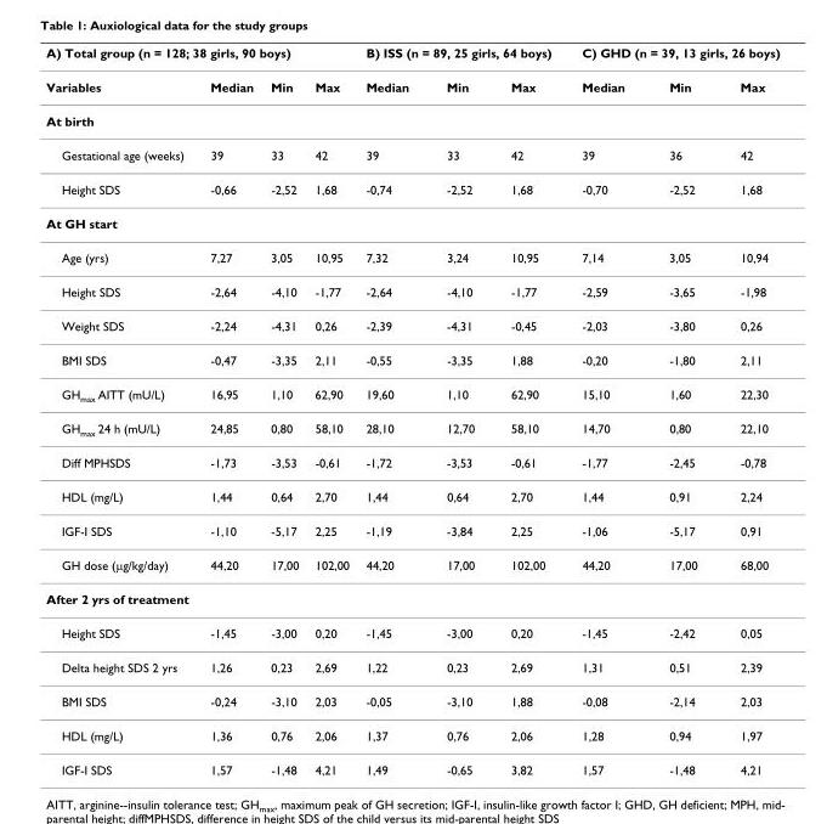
<table><thead><tr><td colspan="4">A) Total group (n = 128; 38 girls, 90 boys)</td><td colspan="3">B) ISS (n = 89, 25 girls, 64 boys)</td><td colspan="3">C) GHD (n = 39, 13 girls, 26 boys)</td></tr><tr><td>Variables</td><td>Median</td><td>Min</td><td>Max</td><td>Median</td><td>Min</td><td>Max</td><td>Median</td><td>Min</td><td>Max</td></tr></thead><tbody><tr><td colspan="10">At birth</td></tr><tr><td>Gestational age (weeks)</td><td>39</td><td>33</td><td>42</td><td>39</td><td>33</td><td>42</td><td>39</td><td>36</td><td>42</td></tr><tr><td>Height SDS</td><td>-0,66</td><td>-2,52</td><td>1,68</td><td>-0,74</td><td>-2,52</td><td>1,68</td><td>-0,70</td><td>-2,52</td><td>1,68</td></tr><tr><td colspan="10">At GH start</td></tr><tr><td>Age (yrs)</td><td>7,27</td><td>3,05</td><td>10,95</td><td>7,32</td><td>3,24</td><td>10,95</td><td>7,14</td><td>3,05</td><td>10,94</td></tr><tr><td>Height SDS</td><td>-2,64</td><td>-4,10</td><td>-1,77</td><td>-2,64</td><td>-4,10</td><td>-1,77</td><td>-2,59</td><td>-3,65</td><td>-1,98</td></tr><tr><td>Weight SDS</td><td>-2,24</td><td>-4,31</td><td>0,26</td><td>-2,39</td><td>-4,31</td><td>-0,45</td><td>-2,03</td><td>-3,80</td><td>0,26</td></tr><tr><td>BMI SDS</td><td>-0,47</td><td>-3,35</td><td>2,11</td><td>-0,55</td><td>-3,35</td><td>1,88</td><td>-0,20</td><td>-1,80</td><td>2,11</td></tr><tr><td>GH<sub>max</sub> AITT (mU/L)</td><td>16,95</td><td>1,10</td><td>62,90</td><td>19,60</td><td>1,10</td><td>62,90</td><td>15,10</td><td>1,60</td><td>22,30</td></tr><tr><td>GH<sub>max</sub> 24 h (mU/L)</td><td>24,85</td><td>0,80</td><td>58,10</td><td>28,10</td><td>12,70</td><td>58,10</td><td>14,70</td><td>0,80</td><td>22,10</td></tr><tr><td>Diff MPHSDS</td><td>-1,73</td><td>-3,53</td><td>-0,61</td><td>-1,72</td><td>-3,53</td><td>-0,61</td><td>-1,77</td><td>-2,45</td><td>-0,78</td></tr><tr><td>HDL (mg/L)</td><td>1,44</td><td>0,64</td><td>2,70</td><td>1,44</td><td>0,64</td><td>2,70</td><td>1,44</td><td>0,91</td><td>2,24</td></tr><tr><td>IGF-I SDS</td><td>-1,10</td><td>-5,17</td><td>2,25</td><td>-1,19</td><td>-3,84</td><td>2,25</td><td>-1,06</td><td>-5,17</td><td>0,91</td></tr><tr><td>GH dose (μg/kg/day)</td><td>44,20</td><td>17,00</td><td>102,00</td><td>44,20</td><td>17,00</td><td>102,00</td><td>44,20</td><td>17,00</td><td>68,00</td></tr><tr><td colspan="10">After 2 yrs of treatment</td></tr><tr><td>Height SDS</td><td>-1,45</td><td>-3,00</td><td>0,20</td><td>-1,45</td><td>-3,00</td><td>0,20</td><td>-1,45</td><td>-2,42</td><td>0,05</td></tr><tr><td>Delta height SDS 2 yrs</td><td>1,26</td><td>0,23</td><td>2,69</td><td>1,22</td><td>0,23</td><td>2,69</td><td>1,31</td><td>0,51</td><td>2,39</td></tr><tr><td>BMI SDS</td><td>-0,24</td><td>-3,10</td><td>2,03</td><td>-0,05</td><td>-3,10</td><td>1,88</td><td>-0,08</td><td>-2,14</td><td>2,03</td></tr><tr><td>HDL (mg/L)</td><td>1,36</td><td>0,76</td><td>2,06</td><td>1,37</td><td>0,76</td><td>2,06</td><td>1,28</td><td>0,94</td><td>1,97</td></tr><tr><td>IGF-I SDS</td><td>1,57</td><td>-1,48</td><td>4,21</td><td>1,49</td><td>-0,65</td><td>3,82</td><td>1,57</td><td>-1,48</td><td>4,21</td></tr></tbody></table>